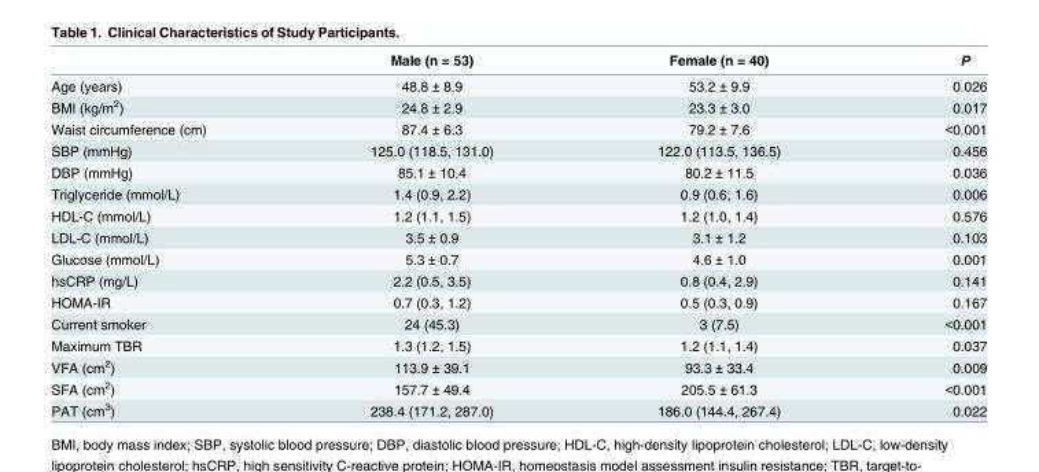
<table><thead><tr><td></td><td>Male (n = 53)</td><td>Female (n = 40)</td><td>P</td></tr></thead><tbody><tr><td>Age (years)</td><td>48.8 ± 8.9</td><td>53.2 ± 9.9</td><td>0.026</td></tr><tr><td>BMI (kg/m<sup>2</sup>)</td><td>24.8 ± 2.9</td><td>23.3 ± 3.0</td><td>0.017</td></tr><tr><td>Waist circumference (cm)</td><td>87.4 ± 6.3</td><td>79.2 ± 7.6</td><td>&lt;0.001</td></tr><tr><td>SBP (mmHg)</td><td>125.0 (118.5, 131.0)</td><td>122.0 (113.5, 136.5)</td><td>0.456</td></tr><tr><td>DBP (mmHg)</td><td>85.1 ± 10.4</td><td>80.2 ± 11.5</td><td>0.036</td></tr><tr><td>Triglyceride (mmol/L)</td><td>1.4 (0.9, 2.2)</td><td>0.9 (0.6, 1.6)</td><td>0.006</td></tr><tr><td>HDL-C (mmol/L)</td><td>1.2 (1.1, 1.5)</td><td>1.2 (1.0, 1.4)</td><td>0.576</td></tr><tr><td>LDL-C (mmol/L)</td><td>3.5 ± 0.9</td><td>3.1 ± 1.2</td><td>0.103</td></tr><tr><td>Glucose (mmol/L)</td><td>5.3 ± 0.7</td><td>4.6 ± 1.0</td><td>0.001</td></tr><tr><td>hsCRP (mg/L)</td><td>2.2 (0.5, 3.5)</td><td>0.8 (0.4, 2.9)</td><td>0.141</td></tr><tr><td>HOMA-IR</td><td>0.7 (0.3, 1.2)</td><td>0.5 (0.3, 0.9)</td><td>0.167</td></tr><tr><td>Current smoker</td><td>24 (45.3)</td><td>3 (7.5)</td><td>&lt;0.001</td></tr><tr><td>Maximum TBR</td><td>1.3 (1.2, 1.5)</td><td>1.2 (1.1, 1.4)</td><td>0.037</td></tr><tr><td>VFA (cm<sup>2</sup>)</td><td>113.9 ± 39.1</td><td>93.3 ± 33.4</td><td>0.009</td></tr><tr><td>SFA (cm<sup>2</sup>)</td><td>157.7 ± 49.4</td><td>205.5 ± 61.3</td><td>&lt;0.001</td></tr><tr><td>PAT (cm<sup>3</sup>)</td><td>238.4 (171.2, 287.0)</td><td>186.0 (144.4, 267.4)</td><td>0.022</td></tr></tbody></table>